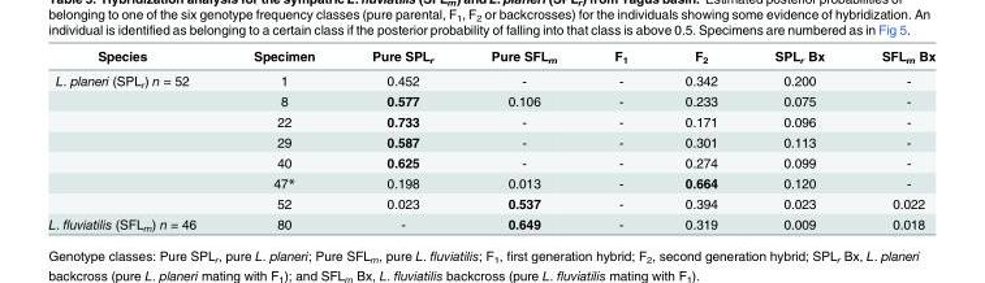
<table><thead><tr><td>Species</td><td>Specimen</td><td>Pure SPL<sub>r</sub></td><td>Pure SFL<sub>m</sub></td><td>F<sub>1</sub></td><td>F<sub>2</sub></td><td>SPL<sub>r</sub> Bx</td><td>SFL<sub>m</sub> Bx</td></tr></thead><tbody><tr><td rowspan="7">L. planeri (SPL<sub>r</sub>) n = 52</td><td>1</td><td>0.452</td><td>-</td><td>-</td><td>0.342</td><td>0.200</td><td>-</td></tr><tr><td>8</td><td>0.577</td><td>0.106</td><td>-</td><td>0.233</td><td>0.075</td><td>-</td></tr><tr><td>22</td><td>0.733</td><td>-</td><td>-</td><td>0.171</td><td>0.096</td><td>-</td></tr><tr><td>29</td><td>0.587</td><td>-</td><td>-</td><td>0.301</td><td>0.113</td><td>-</td></tr><tr><td>40</td><td>0.625</td><td>-</td><td>-</td><td>0.274</td><td>0.099</td><td>-</td></tr><tr><td>47*</td><td>0.198</td><td>0.013</td><td>-</td><td>0.664</td><td>0.120</td><td>-</td></tr><tr><td>52</td><td>0.023</td><td>0.537</td><td>-</td><td>0.394</td><td>0.023</td><td>0.022</td></tr><tr><td>L. fluviatilis (SFL<sub>m</sub>) n = 46</td><td>80</td><td>-</td><td>0.649</td><td>-</td><td>0.319</td><td>0.009</td><td>0.018</td></tr></tbody></table>